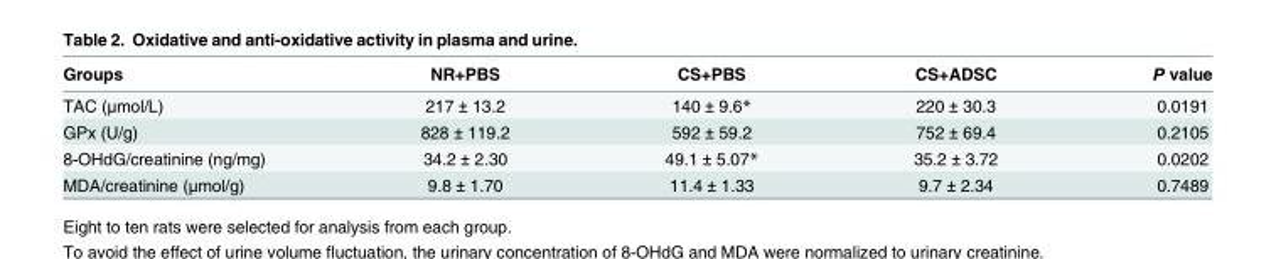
<table><thead><tr><td>Groups</td><td>NR+PBS</td><td>CS+PBS</td><td>CS+ADSC</td><td>P value</td></tr></thead><tbody><tr><td>TAC (μmol/L)</td><td>217 ± 13.2</td><td>140 ± 9.6*</td><td>220 ± 30.3</td><td>0.0191</td></tr><tr><td>GPx (U/g)</td><td>828 ± 119.2</td><td>592 ± 59.2</td><td>752 ± 69.4</td><td>0.2105</td></tr><tr><td>8-OHdG/creatinine (ng/mg)</td><td>34.2 ± 2.30</td><td>49.1 ± 5.07*</td><td>35.2 ± 3.72</td><td>0.0202</td></tr><tr><td>MDA/creatinine (μmol/g)</td><td>9.8 ± 1.70</td><td>11.4 ± 1.33</td><td>9.7 ± 2.34</td><td>0.7489</td></tr></tbody></table>